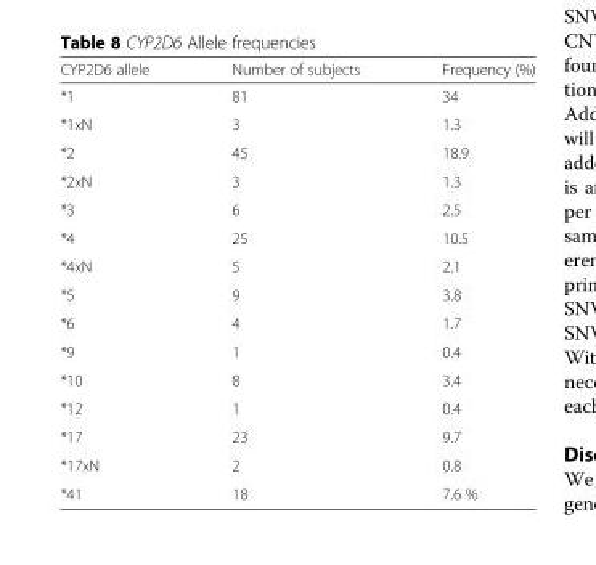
<table><thead><tr><td>CYP2D6 allele</td><td>Number of subjects</td><td>Frequency (%)</td></tr></thead><tbody><tr><td>*1</td><td>81</td><td>34</td></tr><tr><td>*1xN</td><td>3</td><td>1.3</td></tr><tr><td>*2</td><td>45</td><td>18.9</td></tr><tr><td>*2xN</td><td>3</td><td>1.3</td></tr><tr><td>*3</td><td>6</td><td>2.5</td></tr><tr><td>*4</td><td>25</td><td>10.5</td></tr><tr><td>*4xN</td><td>5</td><td>2.1</td></tr><tr><td>*5</td><td>9</td><td>3.8</td></tr><tr><td>*6</td><td>4</td><td>1.7</td></tr><tr><td>*9</td><td>1</td><td>0.4</td></tr><tr><td>*10</td><td>8</td><td>3.4</td></tr><tr><td>*12</td><td>1</td><td>0.4</td></tr><tr><td>*17</td><td>23</td><td>9.7</td></tr><tr><td>*17xN</td><td>2</td><td>0.8</td></tr><tr><td>*41</td><td>18</td><td>7.6 %</td></tr></tbody></table>